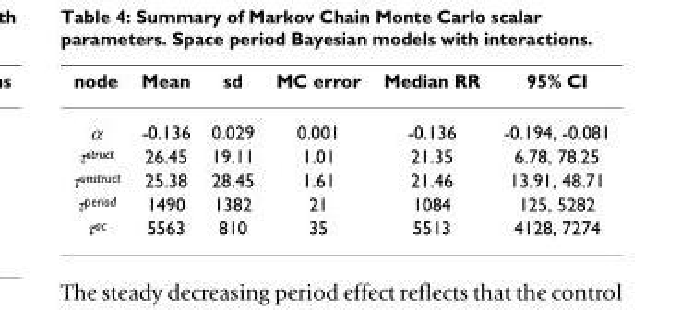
<table><thead><tr><td>node</td><td>Mean</td><td>sd</td><td>MC error</td><td>Median RR</td><td>95% CI</td></tr></thead><tbody><tr><td>α</td><td>-0.136</td><td>0.029</td><td>0.001</td><td>-0.136</td><td>-0.194, -0.081</td></tr><tr><td>τ<sup>struct</sup></td><td>26.45</td><td>19.11</td><td>1.01</td><td>21.35</td><td>6.78, 78.25</td></tr><tr><td>τ<sup>unstruct</sup></td><td>25.38</td><td>28.45</td><td>1.61</td><td>21.46</td><td>13.91, 48.71</td></tr><tr><td>τ<sup>period</sup></td><td>1490</td><td>1382</td><td>21</td><td>1084</td><td>125, 5282</td></tr><tr><td>τ<sup>ac</sup></td><td>5563</td><td>810</td><td>35</td><td>5513</td><td>4128, 7274</td></tr></tbody></table>